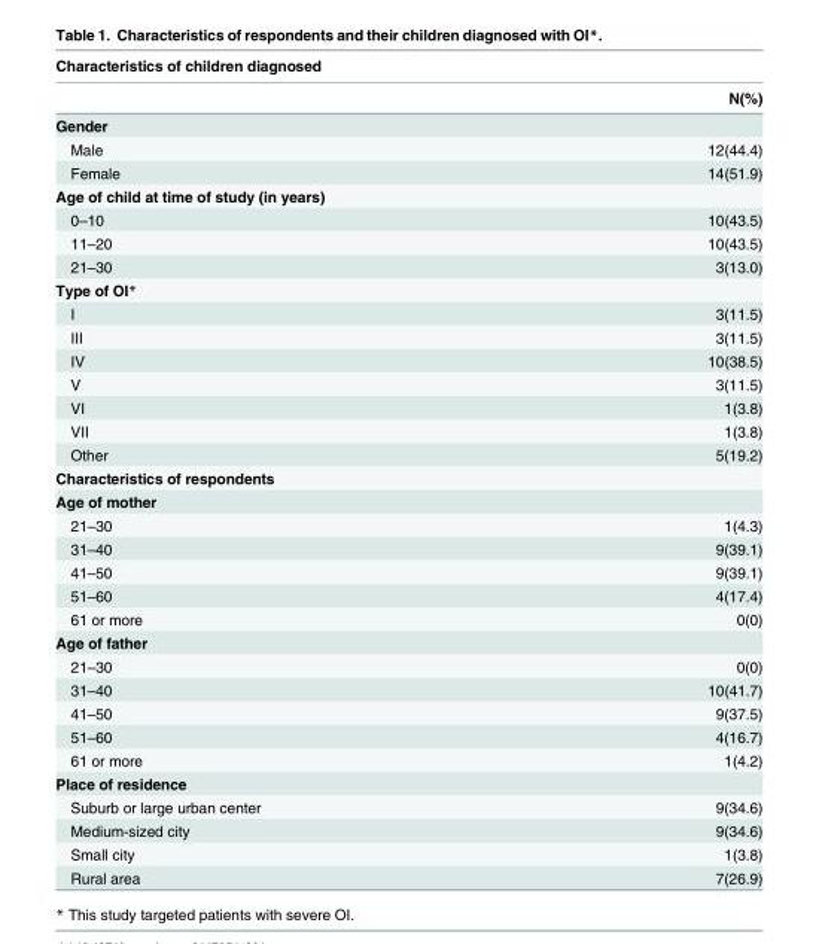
<table><thead><tr><td colspan="2">Characteristics of children diagnosed</td></tr><tr><td></td><td>N(%)</td></tr></thead><tbody><tr><td colspan="2">Gender</td></tr><tr><td>Male</td><td>12(44.4)</td></tr><tr><td>Female</td><td>14(51.9)</td></tr><tr><td colspan="2">Age of child at time of study (in years)</td></tr><tr><td>0–10</td><td>10(43.5)</td></tr><tr><td>11–20</td><td>10(43.5)</td></tr><tr><td>21–30</td><td>3(13.0)</td></tr><tr><td colspan="2">Type of OI*</td></tr><tr><td>I</td><td>3(11.5)</td></tr><tr><td>III</td><td>3(11.5)</td></tr><tr><td>IV</td><td>10(38.5)</td></tr><tr><td>V</td><td>3(11.5)</td></tr><tr><td>VI</td><td>1(3.8)</td></tr><tr><td>VII</td><td>1(3.8)</td></tr><tr><td>Other</td><td>5(19.2)</td></tr><tr><td colspan="2">Characteristics of respondents</td></tr><tr><td colspan="2">Age of mother</td></tr><tr><td>21–30</td><td>1(4.3)</td></tr><tr><td>31–40</td><td>9(39.1)</td></tr><tr><td>41–50</td><td>9(39.1)</td></tr><tr><td>51–60</td><td>4(17.4)</td></tr><tr><td>61 or more</td><td>0(0)</td></tr><tr><td colspan="2">Age of father</td></tr><tr><td>21–30</td><td>0(0)</td></tr><tr><td>31–40</td><td>10(41.7)</td></tr><tr><td>41–50</td><td>9(37.5)</td></tr><tr><td>51–60</td><td>4(16.7)</td></tr><tr><td>61 or more</td><td>1(4.2)</td></tr><tr><td colspan="2">Place of residence</td></tr><tr><td>Suburb or large urban center</td><td>9(34.6)</td></tr><tr><td>Medium-sized city</td><td>9(34.6)</td></tr><tr><td>Small city</td><td>1(3.8)</td></tr><tr><td>Rural area</td><td>7(26.9)</td></tr></tbody></table>